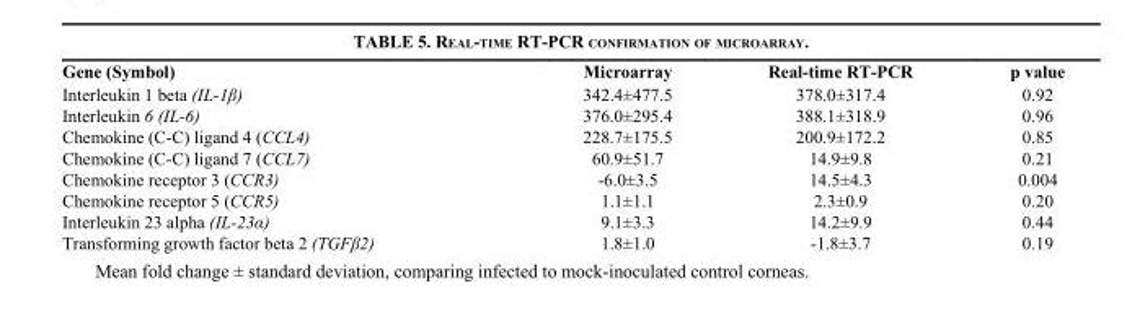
<table><thead><tr><td>Gene (Symbol)</td><td>Microarray</td><td>Real-time RT-PCR</td><td>p value</td></tr></thead><tbody><tr><td>Interleukin 1 beta (IL-1β)</td><td>342.4±477.5</td><td>378.0±317.4</td><td>0.92</td></tr><tr><td>Interleukin 6 (IL-6)</td><td>376.0±295.4</td><td>388.1±318.9</td><td>0.96</td></tr><tr><td>Chemokine (C-C) ligand 4 (CCL4)</td><td>228.7±175.5</td><td>200.9±172.2</td><td>0.85</td></tr><tr><td>Chemokine (C-C) ligand 7 (CCL7)</td><td>60.9±51.7</td><td>14.9±9.8</td><td>0.21</td></tr><tr><td>Chemokine receptor 3 (CCR3)</td><td>-6.0±3.5</td><td>14.5±4.3</td><td>0.004</td></tr><tr><td>Chemokine receptor 5 (CCR5)</td><td>1.1±1.1</td><td>2.3±0.9</td><td>0.20</td></tr><tr><td>Interleukin 23 alpha (IL-23α)</td><td>9.1±3.3</td><td>14.2±9.9</td><td>0.44</td></tr><tr><td>Transforming growth factor beta 2 (TGFβ2)</td><td>1.8±1.0</td><td>-1.8±3.7</td><td>0.19</td></tr></tbody></table>